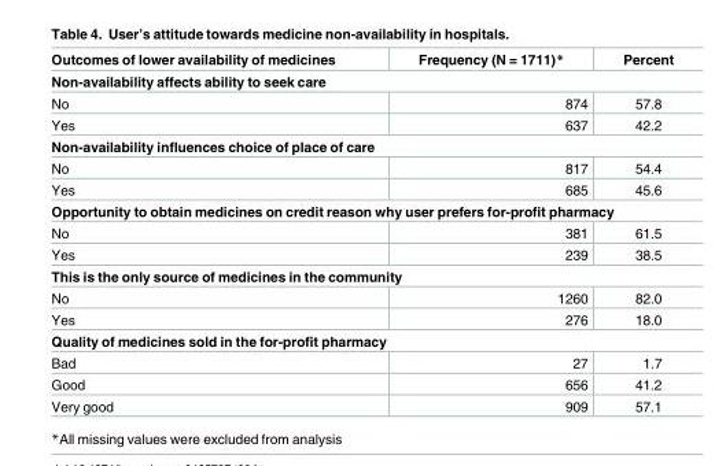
<table><thead><tr><td>Outcomes of lower availability of medicines</td><td>Frequency (N = 1711)*</td><td>Percent</td></tr></thead><tbody><tr><td colspan="3">Non-availability affects ability to seek care</td></tr><tr><td>No</td><td>874</td><td>57.8</td></tr><tr><td>Yes</td><td>637</td><td>42.2</td></tr><tr><td colspan="3">Non-availability influences choice of place of care</td></tr><tr><td>No</td><td>817</td><td>54.4</td></tr><tr><td>Yes</td><td>685</td><td>45.6</td></tr><tr><td colspan="3">Opportunity to obtain medicines on credit reason why user prefers for-profit pharmacy</td></tr><tr><td>No</td><td>381</td><td>61.5</td></tr><tr><td>Yes</td><td>239</td><td>38.5</td></tr><tr><td colspan="3">This is the only source of medicines in the community</td></tr><tr><td>No</td><td>1260</td><td>82.0</td></tr><tr><td>Yes</td><td>276</td><td>18.0</td></tr><tr><td colspan="3">Quality of medicines sold in the for-profit pharmacy</td></tr><tr><td>Bad</td><td>27</td><td>1.7</td></tr><tr><td>Good</td><td>656</td><td>41.2</td></tr><tr><td>Very good</td><td>909</td><td>57.1</td></tr></tbody></table>